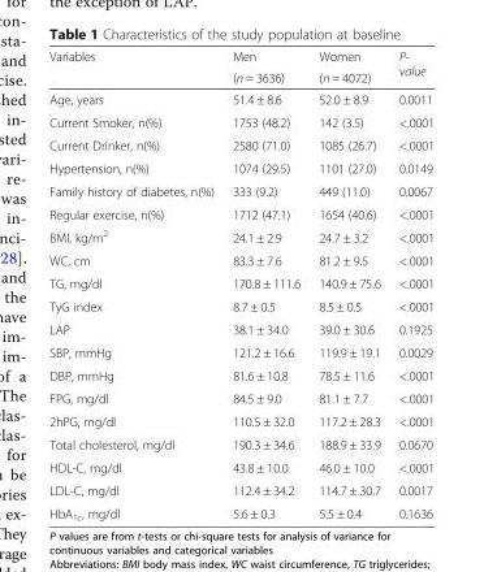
<table><thead><tr><td rowspan="2">Variables</td><td rowspan="2">Men (n = 3636)</td><td rowspan="2">Women (n = 4072)</td><td rowspan="2">P- value</td></tr><tr></tr></thead><tbody><tr><td>Age, years</td><td>51.4 ± 8.6</td><td>52.0 ± 8.9</td><td>0.0011</td></tr><tr><td>Current Smoker, n(%)</td><td>1753 (48.2)</td><td>142 (3.5)</td><td>&lt;.0001</td></tr><tr><td>Current Drinker, n(%)</td><td>2580 (71.0)</td><td>1085 (26.7)</td><td>&lt;.0001</td></tr><tr><td>Hypertension, n(%)</td><td>1074 (29.5)</td><td>1101 (27.0)</td><td>0.0149</td></tr><tr><td>Family history of diabetes, n(%)</td><td>333 (9.2)</td><td>449 (11.0)</td><td>0.0067</td></tr><tr><td>Regular exercise, n(%)</td><td>1712 (47.1)</td><td>1654 (40.6)</td><td>&lt;.0001</td></tr><tr><td>BMI, kg/m<sup>2</sup></td><td>24.1 ± 2.9</td><td>24.7 ± 3.2</td><td>&lt;.0001</td></tr><tr><td>WC, cm</td><td>83.3 ± 7.6</td><td>81.2 ± 9.5</td><td>&lt;.0001</td></tr><tr><td>TG, mg/dl</td><td>170.8 ± 111.6</td><td>140.9 ± 75.6</td><td>&lt;.0001</td></tr><tr><td>TyG index</td><td>8.7 ± 0.5</td><td>8.5 ± 0.5</td><td>&lt;.0001</td></tr><tr><td>LAP</td><td>38.1 ± 34.0</td><td>39.0 ± 30.6</td><td>0.1925</td></tr><tr><td>SBP, mmHg</td><td>121.2 ± 16.6</td><td>119.9 ± 19.1</td><td>0.0029</td></tr><tr><td>DBP, mmHg</td><td>81.6 ± 10.8</td><td>78.5 ± 11.6</td><td>&lt;.0001</td></tr><tr><td>FPG, mg/dl</td><td>84.5 ± 9.0</td><td>81.1 ± 7.7</td><td>&lt;.0001</td></tr><tr><td>2hPG, mg/dl</td><td>110.5 ± 32.0</td><td>117.2 ± 28.3</td><td>&lt;.0001</td></tr><tr><td>Total cholesterol, mg/dl</td><td>190.3 ± 34.6</td><td>188.9 ± 33.9</td><td>0.0670</td></tr><tr><td>HDL-C, mg/dl</td><td>43.8 ± 10.0</td><td>46.0 ± 10.0</td><td>&lt;.0001</td></tr><tr><td>LDL-C, mg/dl</td><td>112.4 ± 34.2</td><td>114.7 ± 30.7</td><td>0.0017</td></tr><tr><td>HbA<sub>1c</sub>, mg/dl</td><td>5.6 ± 0.3</td><td>5.5 ± 0.4</td><td>0.1636</td></tr></tbody></table>